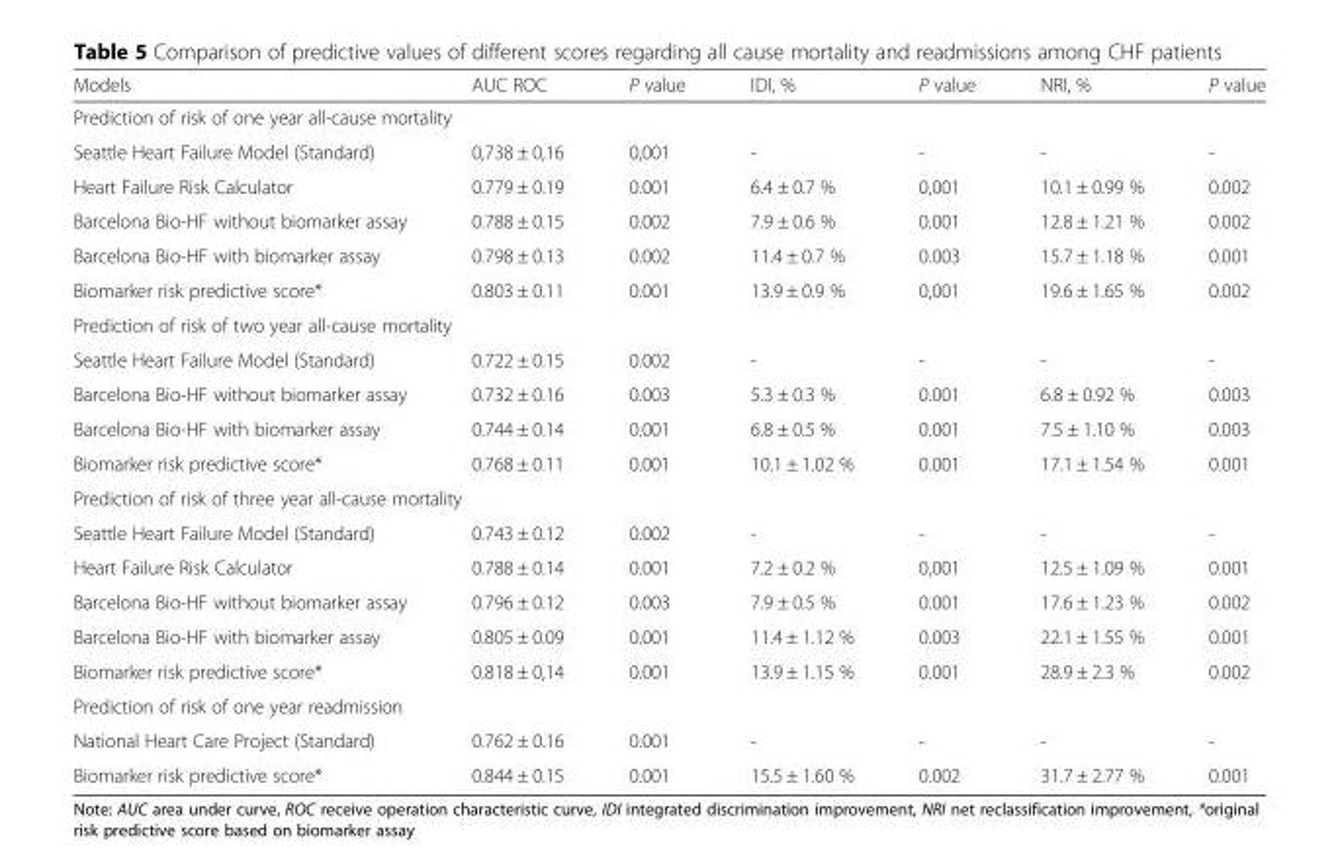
<table><thead><tr><td>Models</td><td>AUC ROC</td><td>P value</td><td>IDI, %</td><td>P value</td><td>NRI, %</td><td>P value</td></tr></thead><tbody><tr><td colspan="7">Prediction of risk of one year all-cause mortality</td></tr><tr><td>Seattle Heart Failure Model (Standard)</td><td>0,738 ± 0,16</td><td>0,001</td><td>-</td><td>-</td><td>-</td><td>-</td></tr><tr><td>Heart Failure Risk Calculator</td><td>0.779 ± 0.19</td><td>0.001</td><td>6.4 ± 0.7 %</td><td>0,001</td><td>10.1 ± 0.99 %</td><td>0.002</td></tr><tr><td>Barcelona Bio-HF without biomarker assay</td><td>0.788 ± 0.15</td><td>0.002</td><td>7.9 ± 0.6 %</td><td>0.001</td><td>12.8 ± 1.21 %</td><td>0.002</td></tr><tr><td>Barcelona Bio-HF with biomarker assay</td><td>0.798 ± 0.13</td><td>0.002</td><td>11.4 ± 0.7 %</td><td>0.003</td><td>15.7 ± 1.18 %</td><td>0.001</td></tr><tr><td>Biomarker risk predictive score*</td><td>0.803 ± 0.11</td><td>0.001</td><td>13.9 ± 0.9 %</td><td>0,001</td><td>19.6 ± 1.65 %</td><td>0.002</td></tr><tr><td colspan="7">Prediction of risk of two year all-cause mortality</td></tr><tr><td>Seattle Heart Failure Model (Standard)</td><td>0.722 ± 0.15</td><td>0.002</td><td>-</td><td>-</td><td>-</td><td>-</td></tr><tr><td>Barcelona Bio-HF without biomarker assay</td><td>0.732 ± 0.16</td><td>0.003</td><td>5.3 ± 0.3 %</td><td>0.001</td><td>6.8 ± 0.92 %</td><td>0.003</td></tr><tr><td>Barcelona Bio-HF with biomarker assay</td><td>0.744 ± 0.14</td><td>0.001</td><td>6.8 ± 0.5 %</td><td>0.001</td><td>7.5 ± 1.10 %</td><td>0.003</td></tr><tr><td>Biomarker risk predictive score*</td><td>0.768 ± 0.11</td><td>0.001</td><td>10.1 ± 1.02 %</td><td>0.001</td><td>17.1 ± 1.54 %</td><td>0.001</td></tr><tr><td colspan="7">Prediction of risk of three year all-cause mortality</td></tr><tr><td>Seattle Heart Failure Model (Standard)</td><td>0.743 ± 0.12</td><td>0.002</td><td>-</td><td>-</td><td>-</td><td>-</td></tr><tr><td>Heart Failure Risk Calculator</td><td>0.788 ± 0.14</td><td>0.001</td><td>7.2 ± 0.2 %</td><td>0,001</td><td>12.5 ± 1.09 %</td><td>0.001</td></tr><tr><td>Barcelona Bio-HF without biomarker assay</td><td>0.796 ± 0.12</td><td>0.003</td><td>7.9 ± 0.5 %</td><td>0.001</td><td>17.6 ± 1.23 %</td><td>0.002</td></tr><tr><td>Barcelona Bio-HF with biomarker assay</td><td>0.805 ± 0.09</td><td>0.001</td><td>11.4 ± 1.12 %</td><td>0.003</td><td>22.1 ± 1.55 %</td><td>0.001</td></tr><tr><td>Biomarker risk predictive score*</td><td>0.818 ± 0,14</td><td>0.001</td><td>13.9 ± 1.15 %</td><td>0.001</td><td>28.9 ± 2.3 %</td><td>0.002</td></tr><tr><td colspan="7">Prediction of risk of one year readmission</td></tr><tr><td>National Heart Care Project (Standard)</td><td>0.762 ± 0.16</td><td>0.001</td><td>-</td><td>-</td><td>-</td><td>-</td></tr><tr><td>Biomarker risk predictive score*</td><td>0.844 ± 0.15</td><td>0.001</td><td>15.5 ± 1.60 %</td><td>0.002</td><td>31.7 ± 2.77 %</td><td>0.001</td></tr></tbody></table>